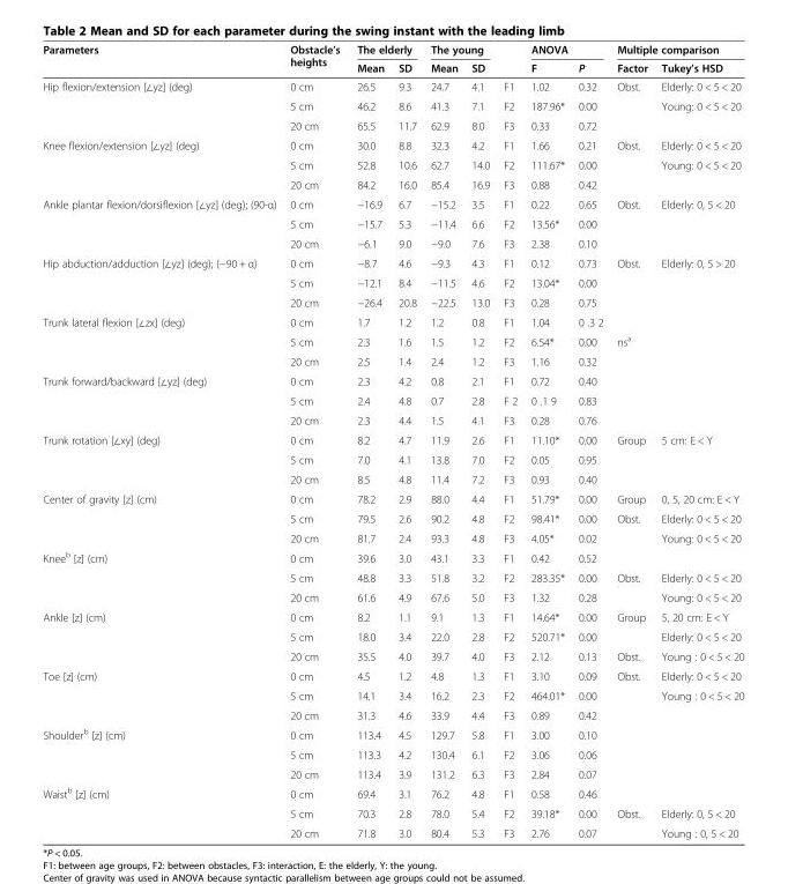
<table><thead><tr><td rowspan="2">Parameters</td><td rowspan="2">Obstacle’s heights</td><td colspan="2">The elderly</td><td colspan="2">The young</td><td rowspan="2"></td><td colspan="2">ANOVA</td><td colspan="2">Multiple comparison</td></tr><tr><td>Mean</td><td>SD</td><td>Mean</td><td>SD</td><td>F</td><td>P</td><td>Factor</td><td>Tukey’s HSD</td></tr></thead><tbody><tr><td rowspan="3">Hip flexion/extension [∠yz] (deg)</td><td>0 cm</td><td>26.5</td><td>9.3</td><td>24.7</td><td>4.1</td><td>F1</td><td>1.02</td><td>0.32</td><td>Obst.</td><td>Elderly: 0 &lt; 5 &lt; 20</td></tr><tr><td>5 cm</td><td>46.2</td><td>8.6</td><td>41.3</td><td>7.1</td><td>F2</td><td>187.96*</td><td>0.00</td><td></td><td>Young: 0 &lt; 5 &lt; 20</td></tr><tr><td>20 cm</td><td>65.5</td><td>11.7</td><td>62.9</td><td>8.0</td><td>F3</td><td>0.33</td><td>0.72</td><td></td><td></td></tr><tr><td rowspan="3">Knee flexion/extension [∠yz] (deg)</td><td>0 cm</td><td>30.0</td><td>8.8</td><td>32.3</td><td>4.2</td><td>F1</td><td>1.66</td><td>0.21</td><td>Obst.</td><td>Elderly: 0 &lt; 5 &lt; 20</td></tr><tr><td>5 cm</td><td>52.8</td><td>10.6</td><td>62.7</td><td>14.0</td><td>F2</td><td>111.67*</td><td>0.00</td><td></td><td>Young: 0 &lt; 5 &lt; 20</td></tr><tr><td>20 cm</td><td>84.2</td><td>16.0</td><td>85.4</td><td>16.9</td><td>F3</td><td>0.88</td><td>0.42</td><td></td><td></td></tr><tr><td rowspan="3">Ankle plantar flexion/dorsiflexion [∠yz] (deg); (90-α)</td><td>0 cm</td><td>−16.9</td><td>6.7</td><td>−15.2</td><td>3.5</td><td>F1</td><td>0.22</td><td>0.65</td><td>Obst.</td><td>Elderly: 0, 5 &lt; 20</td></tr><tr><td>5 cm</td><td>−15.7</td><td>5.3</td><td>−11.4</td><td>6.6</td><td>F2</td><td>13.56*</td><td>0.00</td><td></td><td></td></tr><tr><td>20 cm</td><td>−6.1</td><td>9.0</td><td>−9.0</td><td>7.6</td><td>F3</td><td>2.38</td><td>0.10</td><td></td><td></td></tr><tr><td rowspan="3">Hip abduction/adduction [∠yz] (deg); (−90 + α)</td><td>0 cm</td><td>−8.7</td><td>4.6</td><td>−9.3</td><td>4.3</td><td>F1</td><td>0.12</td><td>0.73</td><td>Obst.</td><td>Elderly: 0, 5 &gt; 20</td></tr><tr><td>5 cm</td><td>−12.1</td><td>8.4</td><td>−11.5</td><td>4.6</td><td>F2</td><td>13.04*</td><td>0.00</td><td></td><td></td></tr><tr><td>20 cm</td><td>−26.4</td><td>20.8</td><td>−22.5</td><td>13.0</td><td>F3</td><td>0.28</td><td>0.75</td><td></td><td></td></tr><tr><td rowspan="3">Trunk lateral flexion [∠zx] (deg)</td><td>0 cm</td><td>1.7</td><td>1.2</td><td>1.2</td><td>0.8</td><td>F1</td><td>1.04</td><td>0 .3 2</td><td></td><td></td></tr><tr><td>5 cm</td><td>2.3</td><td>1.6</td><td>1.5</td><td>1.2</td><td>F2</td><td>6.54*</td><td>0.00</td><td>ns<sup>a</sup></td><td></td></tr><tr><td>20 cm</td><td>2.5</td><td>1.4</td><td>2.4</td><td>1.2</td><td>F3</td><td>1.16</td><td>0.32</td><td></td><td></td></tr><tr><td rowspan="3">Trunk forward/backward [∠yz] (deg)</td><td>0 cm</td><td>2.3</td><td>4.2</td><td>0.8</td><td>2.1</td><td>F1</td><td>0.72</td><td>0.40</td><td></td><td></td></tr><tr><td>5 cm</td><td>2.4</td><td>4.8</td><td>0.7</td><td>2.8</td><td>F 2</td><td>0 .1 9</td><td>0.83</td><td></td><td></td></tr><tr><td>20 cm</td><td>2.3</td><td>4.4</td><td>1.5</td><td>4.1</td><td>F3</td><td>0.28</td><td>0.76</td><td></td><td></td></tr><tr><td rowspan="3">Trunk rotation [∠xy] (deg)</td><td>0 cm</td><td>8.2</td><td>4.7</td><td>11.9</td><td>2.6</td><td>F1</td><td>11.10*</td><td>0.00</td><td>Group</td><td>5 cm: E &lt; Y</td></tr><tr><td>5 cm</td><td>7.0</td><td>4.1</td><td>13.8</td><td>7.0</td><td>F2</td><td>0.05</td><td>0.95</td><td></td><td></td></tr><tr><td>20 cm</td><td>8.5</td><td>4.8</td><td>11.4</td><td>7.2</td><td>F3</td><td>0.93</td><td>0.40</td><td></td><td></td></tr><tr><td rowspan="3">Center of gravity [z] (cm)</td><td>0 cm</td><td>78.2</td><td>2.9</td><td>88.0</td><td>4.4</td><td>F1</td><td>51.79*</td><td>0.00</td><td>Group</td><td>0, 5, 20 cm: E &lt; Y</td></tr><tr><td>5 cm</td><td>79.5</td><td>2.6</td><td>90.2</td><td>4.8</td><td>F2</td><td>98.41*</td><td>0.00</td><td>Obst.</td><td>Elderly: 0 &lt; 5 &lt; 20</td></tr><tr><td>20 cm</td><td>81.7</td><td>2.4</td><td>93.3</td><td>4.8</td><td>F3</td><td>4.05*</td><td>0.02</td><td></td><td>Young: 0 &lt; 5 &lt; 20</td></tr><tr><td rowspan="3">Knee<sup>b</sup> [z] (cm)</td><td>0 cm</td><td>39.6</td><td>3.0</td><td>43.1</td><td>3.3</td><td>F1</td><td>0.42</td><td>0.52</td><td></td><td></td></tr><tr><td>5 cm</td><td>48.8</td><td>3.3</td><td>51.8</td><td>3.2</td><td>F2</td><td>283.35*</td><td>0.00</td><td>Obst.</td><td>Elderly: 0 &lt; 5 &lt; 20</td></tr><tr><td>20 cm</td><td>61.6</td><td>4.9</td><td>67.6</td><td>5.0</td><td>F3</td><td>1.32</td><td>0.28</td><td></td><td>Young: 0 &lt; 5 &lt; 20</td></tr><tr><td rowspan="3">Ankle [z] (cm)</td><td>0 cm</td><td>8.2</td><td>1.1</td><td>9.1</td><td>1.3</td><td>F1</td><td>14.64*</td><td>0.00</td><td>Group</td><td>5, 20 cm: E &lt; Y</td></tr><tr><td>5 cm</td><td>18.0</td><td>3.4</td><td>22.0</td><td>2.8</td><td>F2</td><td>520.71*</td><td>0.00</td><td></td><td>Elderly: 0 &lt; 5 &lt; 20</td></tr><tr><td>20 cm</td><td>35.5</td><td>4.0</td><td>39.7</td><td>4.0</td><td>F3</td><td>2.12</td><td>0.13</td><td>Obst.</td><td>Young : 0 &lt; 5 &lt; 20</td></tr><tr><td rowspan="3">Toe [z] (cm)</td><td>0 cm</td><td>4.5</td><td>1.2</td><td>4.8</td><td>1.3</td><td>F1</td><td>3.10</td><td>0.09</td><td>Obst.</td><td>Elderly: 0 &lt; 5 &lt; 20</td></tr><tr><td>5 cm</td><td>14.1</td><td>3.4</td><td>16.2</td><td>2.3</td><td>F2</td><td>464.01*</td><td>0.00</td><td></td><td>Young : 0 &lt; 5 &lt; 20</td></tr><tr><td>20 cm</td><td>31.3</td><td>4.6</td><td>33.9</td><td>4.4</td><td>F3</td><td>0.89</td><td>0.42</td><td></td><td></td></tr><tr><td rowspan="3">Shoulder<sup>b</sup> [z] (cm)</td><td>0 cm</td><td>113.4</td><td>4.5</td><td>129.7</td><td>5.8</td><td>F1</td><td>3.00</td><td>0.10</td><td></td><td></td></tr><tr><td>5 cm</td><td>113.3</td><td>4.2</td><td>130.4</td><td>6.1</td><td>F2</td><td>3.06</td><td>0.06</td><td></td><td></td></tr><tr><td>20 cm</td><td>113.4</td><td>3.9</td><td>131.2</td><td>6.3</td><td>F3</td><td>2.84</td><td>0.07</td><td></td><td></td></tr><tr><td rowspan="3">Waist<sup>b</sup> [z] (cm)</td><td>0 cm</td><td>69.4</td><td>3.1</td><td>76.2</td><td>4.8</td><td>F1</td><td>0.58</td><td>0.46</td><td></td><td></td></tr><tr><td>5 cm</td><td>70.3</td><td>2.8</td><td>78.0</td><td>5.4</td><td>F2</td><td>39.18*</td><td>0.00</td><td>Obst.</td><td>Elderly: 0, 5 &lt; 20</td></tr><tr><td>20 cm</td><td>71.8</td><td>3.0</td><td>80.4</td><td>5.3</td><td>F3</td><td>2.76</td><td>0.07</td><td></td><td>Young : 0, 5 &lt; 20</td></tr></tbody></table>